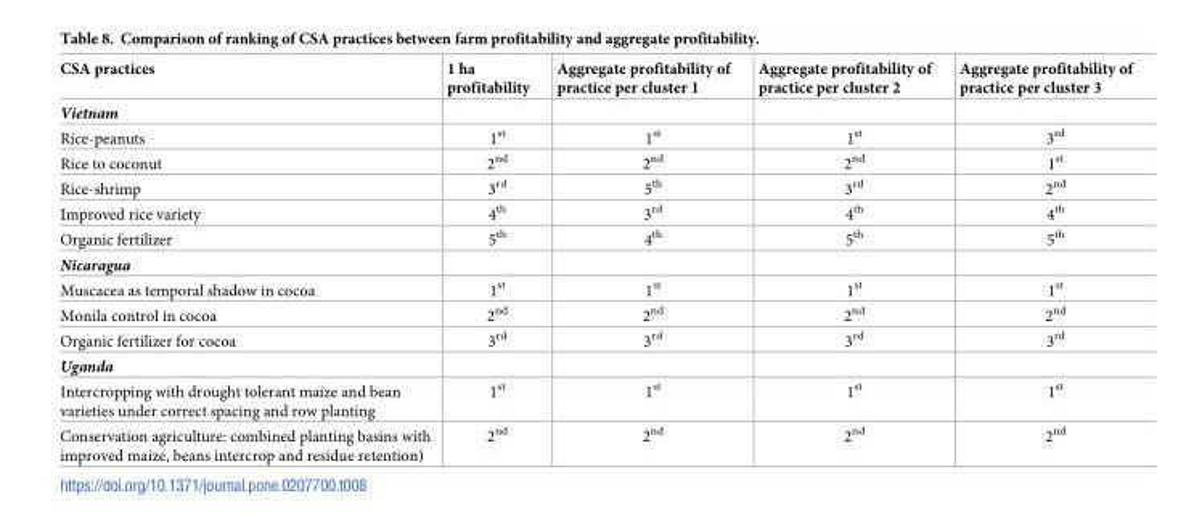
<table><thead><tr><td>CSA practices</td><td>1 ha profitability</td><td>Aggregate profitability of practice per cluster 1</td><td>Aggregate profitability of practice per cluster 2</td><td>Aggregate profitability of practice per cluster 3</td></tr></thead><tbody><tr><td colspan="5">Vietnam</td></tr><tr><td>Rice-peanuts</td><td>1<sup>st</sup></td><td>1<sup>st</sup></td><td>1<sup>st</sup></td><td>3<sup>rd</sup></td></tr><tr><td>Rice to coconut</td><td>2<sup>nd</sup></td><td>2<sup>nd</sup></td><td>2<sup>nd</sup></td><td>1<sup>st</sup></td></tr><tr><td>Rice-shrimp</td><td>3<sup>rd</sup></td><td>5<sup>th</sup></td><td>3<sup>rd</sup></td><td>2<sup>nd</sup></td></tr><tr><td>Improved rice variety</td><td>4<sup>th</sup></td><td>3<sup>rd</sup></td><td>4<sup>th</sup></td><td>4<sup>th</sup></td></tr><tr><td>Organic fertilizer</td><td>5<sup>th</sup></td><td>4<sup>th</sup></td><td>5<sup>th</sup></td><td>5<sup>th</sup></td></tr><tr><td colspan="5">Nicaragua</td></tr><tr><td>Muscacea as temporal shadow in cocoa</td><td>1<sup>st</sup></td><td>1<sup>st</sup></td><td>1<sup>st</sup></td><td>1<sup>st</sup></td></tr><tr><td>Monila control in cocoa</td><td>2<sup>nd</sup></td><td>2<sup>nd</sup></td><td>2<sup>nd</sup></td><td>2<sup>nd</sup></td></tr><tr><td>Organic fertilizer for cocoa</td><td>3<sup>rd</sup></td><td>3<sup>rd</sup></td><td>3<sup>rd</sup></td><td>3<sup>rd</sup></td></tr><tr><td colspan="5">Uganda</td></tr><tr><td>Intercropping with drought tolerant maize and bean varieties under correct spacing and row planting</td><td>1<sup>st</sup></td><td>1<sup>st</sup></td><td>1<sup>st</sup></td><td>1<sup>st</sup></td></tr><tr><td>Conservation agriculture: combined planting basins with improved maize, beans intercrop and residue retention)</td><td>2<sup>nd</sup></td><td>2<sup>nd</sup></td><td>2<sup>nd</sup></td><td>2<sup>nd</sup></td></tr></tbody></table>